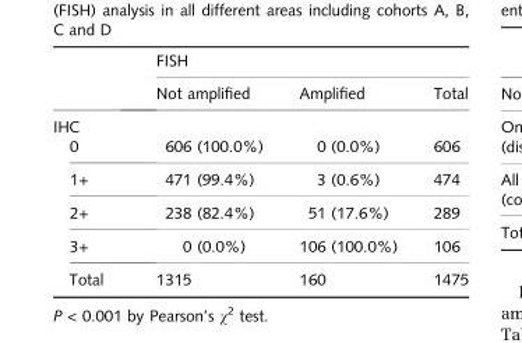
<table><thead><tr><td rowspan="2"></td><td colspan="3">FISH</td></tr><tr><td>Not amplified</td><td>Amplified</td><td>Total</td></tr></thead><tbody><tr><td colspan="4">IHC</td></tr><tr><td>0</td><td>606 (100.0%)</td><td>0 (0.0%)</td><td>606</td></tr><tr><td>1+</td><td>471 (99.4%)</td><td>3 (0.6%)</td><td>474</td></tr><tr><td>2+</td><td>238 (82.4%)</td><td>51 (17.6%)</td><td>289</td></tr><tr><td>3+</td><td>0 (0.0%)</td><td>106 (100.0%)</td><td>106</td></tr><tr><td>Total</td><td>1315</td><td>160</td><td>1475</td></tr></tbody></table>